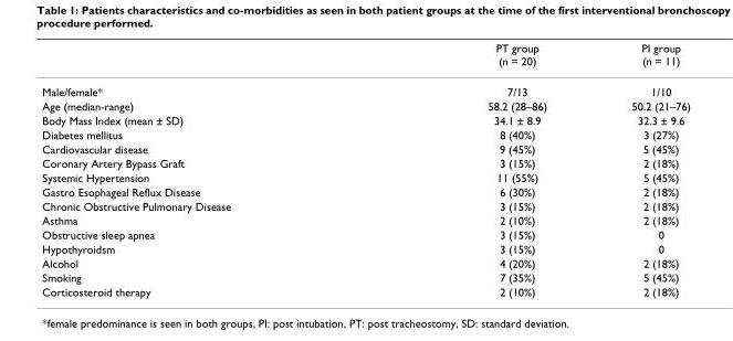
<table><thead><tr><td></td><td>PT group (n = 20)</td><td>PI group (n = 11)</td></tr></thead><tbody><tr><td>Male/female*</td><td>7/13</td><td>1/10</td></tr><tr><td>Age (median-range)</td><td>58.2 (28–86)</td><td>50.2 (21–76)</td></tr><tr><td>Body Mass Index (mean ± SD)</td><td>34.1 ± 8.9</td><td>32.3 ± 9.6</td></tr><tr><td>Diabetes mellitus</td><td>8 (40%)</td><td>3 (27%)</td></tr><tr><td>Cardiovascular disease</td><td>9 (45%)</td><td>5 (45%)</td></tr><tr><td>Coronary Artery Bypass Graft</td><td>3 (15%)</td><td>2 (18%)</td></tr><tr><td>Systemic Hypertension</td><td>11 (55%)</td><td>5 (45%)</td></tr><tr><td>Gastro Esophageal Reflux Disease</td><td>6 (30%)</td><td>2 (18%)</td></tr><tr><td>Chronic Obstructive Pulmonary Disease</td><td>3 (15%)</td><td>2 (18%)</td></tr><tr><td>Asthma</td><td>2 (10%)</td><td>2 (18%)</td></tr><tr><td>Obstructive sleep apnea</td><td>3 (15%)</td><td>0</td></tr><tr><td>Hypothyroidsm</td><td>3 (15%)</td><td>0</td></tr><tr><td>Alcohol</td><td>4 (20%)</td><td>2 (18%)</td></tr><tr><td>Smoking</td><td>7 (35%)</td><td>5 (45%)</td></tr><tr><td>Corticosteroid therapy</td><td>2 (10%)</td><td>2 (18%)</td></tr></tbody></table>